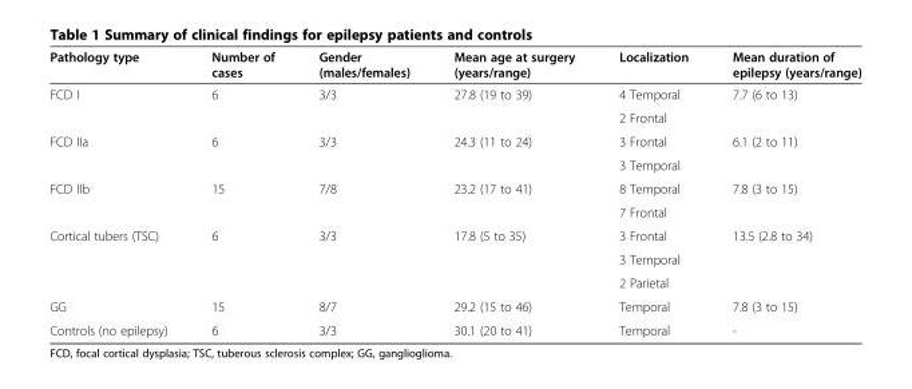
<table><thead><tr><td>Pathology type</td><td>Number of cases</td><td>Gender (males/females)</td><td>Mean age at surgery (years/range)</td><td>Localization</td><td>Mean duration of epilepsy (years/range)</td></tr></thead><tbody><tr><td rowspan="2">FCD I</td><td rowspan="2">6</td><td rowspan="2">3/3</td><td rowspan="2">27.8 (19 to 39)</td><td>4 Temporal</td><td rowspan="2">7.7 (6 to 13)</td></tr><tr><td>2 Frontal</td></tr><tr><td rowspan="2">FCD IIa</td><td rowspan="2">6</td><td rowspan="2">3/3</td><td rowspan="2">24.3 (11 to 24)</td><td>3 Frontal</td><td rowspan="2">6.1 (2 to 11)</td></tr><tr><td>3 Temporal</td></tr><tr><td rowspan="2">FCD IIb</td><td rowspan="2">15</td><td rowspan="2">7/8</td><td rowspan="2">23.2 (17 to 41)</td><td>8 Temporal</td><td rowspan="2">7.8 (3 to 15)</td></tr><tr><td>7 Frontal</td></tr><tr><td rowspan="3">Cortical tubers (TSC)</td><td rowspan="3">6</td><td rowspan="3">3/3</td><td rowspan="3">17.8 (5 to 35)</td><td>3 Frontal</td><td rowspan="3">13.5 (2.8 to 34)</td></tr><tr><td>3 Temporal</td></tr><tr><td>2 Parietal</td></tr><tr><td>GG</td><td>15</td><td>8/7</td><td>29.2 (15 to 46)</td><td>Temporal</td><td>7.8 (3 to 15)</td></tr><tr><td>Controls (no epilepsy)</td><td>6</td><td>3/3</td><td>30.1 (20 to 41)</td><td>Temporal</td><td>-</td></tr></tbody></table>